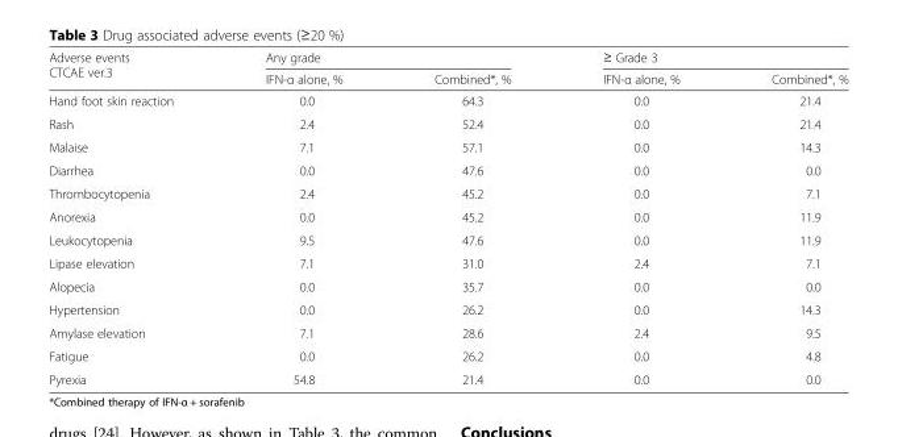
<table><thead><tr><td rowspan="2">Adverse events CTCAE ver.3</td><td colspan="2">Any grade</td><td colspan="2">≥ Grade 3</td></tr><tr><td>IFN-α alone, %</td><td>Combined*, %</td><td>IFN-α alone, %</td><td>Combined*, %</td></tr></thead><tbody><tr><td>Hand foot skin reaction</td><td>0.0</td><td>64.3</td><td>0.0</td><td>21.4</td></tr><tr><td>Rash</td><td>2.4</td><td>52.4</td><td>0.0</td><td>21.4</td></tr><tr><td>Malaise</td><td>7.1</td><td>57.1</td><td>0.0</td><td>14.3</td></tr><tr><td>Diarrhea</td><td>0.0</td><td>47.6</td><td>0.0</td><td>0.0</td></tr><tr><td>Thrombocytopenia</td><td>2.4</td><td>45.2</td><td>0.0</td><td>7.1</td></tr><tr><td>Anorexia</td><td>0.0</td><td>45.2</td><td>0.0</td><td>11.9</td></tr><tr><td>Leukocytopenia</td><td>9.5</td><td>47.6</td><td>0.0</td><td>11.9</td></tr><tr><td>Lipase elevation</td><td>7.1</td><td>31.0</td><td>2.4</td><td>7.1</td></tr><tr><td>Alopecia</td><td>0.0</td><td>35.7</td><td>0.0</td><td>0.0</td></tr><tr><td>Hypertension</td><td>0.0</td><td>26.2</td><td>0.0</td><td>14.3</td></tr><tr><td>Amylase elevation</td><td>7.1</td><td>28.6</td><td>2.4</td><td>9.5</td></tr><tr><td>Fatigue</td><td>0.0</td><td>26.2</td><td>0.0</td><td>4.8</td></tr><tr><td>Pyrexia</td><td>54.8</td><td>21.4</td><td>0.0</td><td>0.0</td></tr></tbody></table>